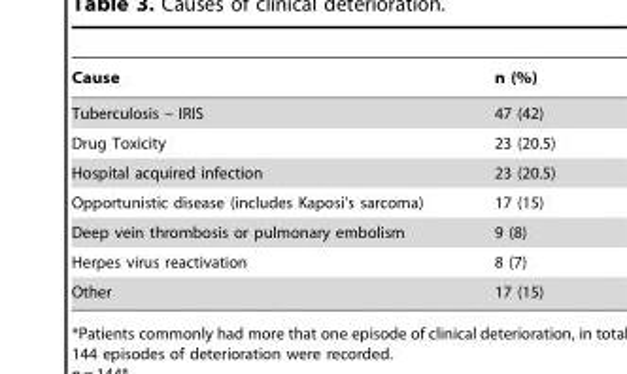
<table><thead><tr><td>Cause</td><td>n (%)</td></tr></thead><tbody><tr><td>Tuberculosis – IRIS</td><td>47 (42)</td></tr><tr><td>Drug Toxicity</td><td>23 (20.5)</td></tr><tr><td>Hospital acquired infection</td><td>23 (20.5)</td></tr><tr><td>Opportunistic disease (includes Kaposi’s sarcoma)</td><td>17 (15)</td></tr><tr><td>Deep vein thrombosis or pulmonary embolism</td><td>9 (8)</td></tr><tr><td>Herpes virus reactivation</td><td>8 (7)</td></tr><tr><td>Other</td><td>17 (15)</td></tr></tbody></table>